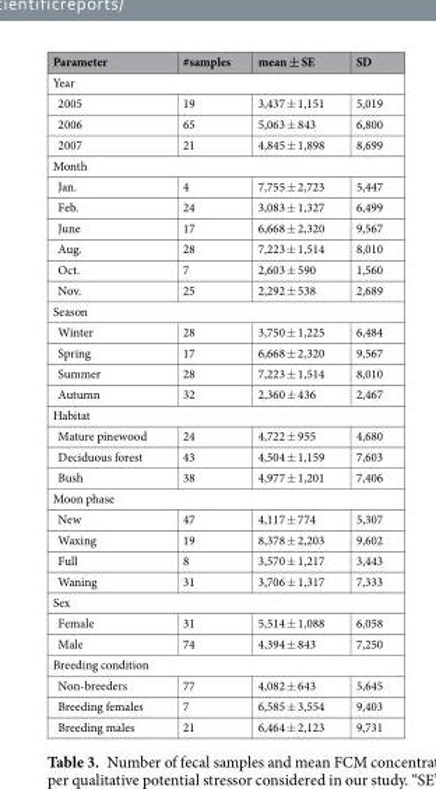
<table><thead><tr><td>Parameter</td><td>#samples</td><td>mean ± SE</td><td>SD</td></tr></thead><tbody><tr><td colspan="4">Year</td></tr><tr><td>2005</td><td>19</td><td>3,437 ± 1,151</td><td>5,019</td></tr><tr><td>2006</td><td>65</td><td>5,063 ± 843</td><td>6,800</td></tr><tr><td>2007</td><td>21</td><td>4,845 ± 1,898</td><td>8,699</td></tr><tr><td colspan="4">Month</td></tr><tr><td>Jan.</td><td>4</td><td>7,755 ± 2,723</td><td>5,447</td></tr><tr><td>Feb.</td><td>24</td><td>3,083 ± 1,327</td><td>6,499</td></tr><tr><td>June</td><td>17</td><td>6,668 ± 2,320</td><td>9,567</td></tr><tr><td>Aug.</td><td>28</td><td>7,223 ± 1,514</td><td>8,010</td></tr><tr><td>Oct.</td><td>7</td><td>2,603 ± 590</td><td>1,560</td></tr><tr><td>Nov.</td><td>25</td><td>2,292 ± 538</td><td>2,689</td></tr><tr><td colspan="4">Season</td></tr><tr><td>Winter</td><td>28</td><td>3,750 ± 1,225</td><td>6,484</td></tr><tr><td>Spring</td><td>17</td><td>6,668 ± 2,320</td><td>9,567</td></tr><tr><td>Summer</td><td>28</td><td>7,223 ± 1,514</td><td>8,010</td></tr><tr><td>Autumn</td><td>32</td><td>2,360 ± 436</td><td>2,467</td></tr><tr><td colspan="4">Habitat</td></tr><tr><td>Mature pinewood</td><td>24</td><td>4,722 ± 955</td><td>4,680</td></tr><tr><td>Deciduous forest</td><td>43</td><td>4,504 ± 1,159</td><td>7,603</td></tr><tr><td>Bush</td><td>38</td><td>4,977 ± 1,201</td><td>7,406</td></tr><tr><td colspan="4">Moon phase</td></tr><tr><td>New</td><td>47</td><td>4,117 ± 774</td><td>5,307</td></tr><tr><td>Waxing</td><td>19</td><td>8,378 ± 2,203</td><td>9,602</td></tr><tr><td>Full</td><td>8</td><td>3,570 ± 1,217</td><td>3,443</td></tr><tr><td>Waning</td><td>31</td><td>3,706 ± 1,317</td><td>7,333</td></tr><tr><td colspan="4">Sex</td></tr><tr><td>Female</td><td>31</td><td>5,514 ± 1,088</td><td>6,058</td></tr><tr><td>Male</td><td>74</td><td>4,394 ± 843</td><td>7,250</td></tr><tr><td colspan="4">Breeding condition</td></tr><tr><td>Non-breeders</td><td>77</td><td>4,082 ± 643</td><td>5,645</td></tr><tr><td>Breeding females</td><td>7</td><td>6,585 ± 3,554</td><td>9,403</td></tr><tr><td>Breeding males</td><td>21</td><td>6,464 ± 2,123</td><td>9,731</td></tr></tbody></table>